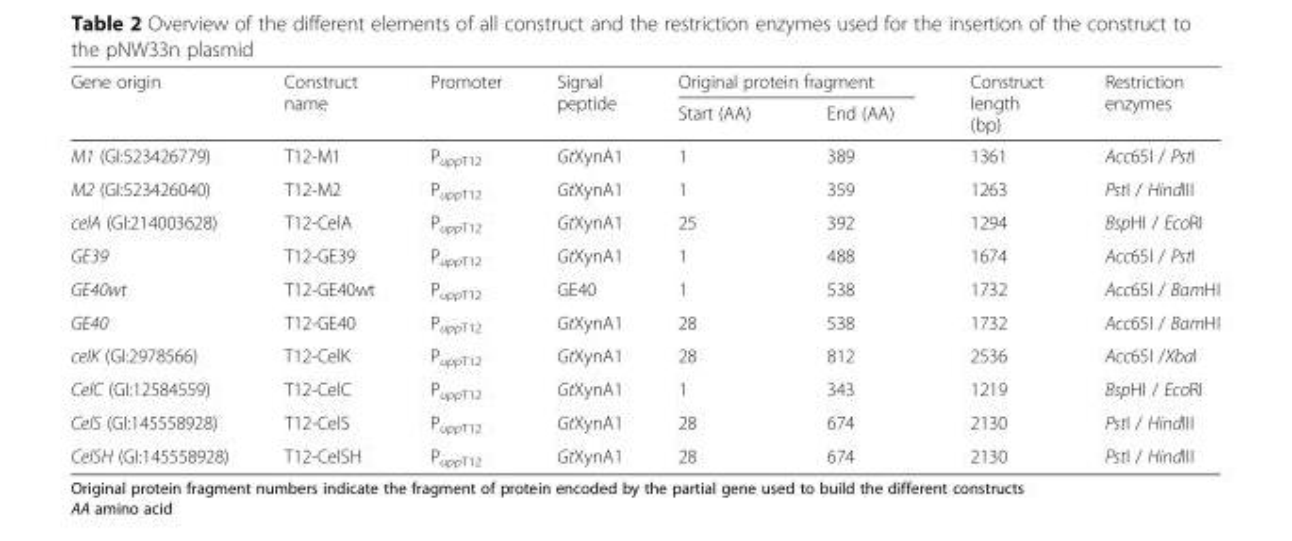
<table><thead><tr><td rowspan="2">Gene origin</td><td rowspan="2">Construct name</td><td rowspan="2">Promoter</td><td rowspan="2">Signal peptide</td><td colspan="2">Original protein fragment</td><td rowspan="2">Construct length (bp)</td><td rowspan="2">Restriction enzymes</td></tr><tr><td>Start (AA)</td><td>End (AA)</td></tr></thead><tbody><tr><td>M1 (GI:523426779)</td><td>T12-M1</td><td>P<sub>uppT12</sub></td><td>GtXynA1</td><td>1</td><td>389</td><td>1361</td><td>Acc65I / PstI</td></tr><tr><td>M2 (GI:523426040)</td><td>T12-M2</td><td>P<sub>uppT12</sub></td><td>GtXynA1</td><td>1</td><td>359</td><td>1263</td><td>PstI / HindIII</td></tr><tr><td>celA (GI:214003628)</td><td>T12-CelA</td><td>P<sub>uppT12</sub></td><td>GtXynA1</td><td>25</td><td>392</td><td>1294</td><td>BspHI / EcoRI</td></tr><tr><td>GE39</td><td>T12-GE39</td><td>P<sub>uppT12</sub></td><td>GtXynA1</td><td>1</td><td>488</td><td>1674</td><td>Acc65I / PstI</td></tr><tr><td>GE40wt</td><td>T12-GE40wt</td><td>P<sub>uppT12</sub></td><td>GE40</td><td>1</td><td>538</td><td>1732</td><td>Acc65I / BamHI</td></tr><tr><td>GE40</td><td>T12-GE40</td><td>P<sub>uppT12</sub></td><td>GtXynA1</td><td>28</td><td>538</td><td>1732</td><td>Acc65I / BamHI</td></tr><tr><td>celK (GI:2978566)</td><td>T12-CelK</td><td>P<sub>uppT12</sub></td><td>GtXynA1</td><td>28</td><td>812</td><td>2536</td><td>Acc65I /XbaI</td></tr><tr><td>CelC (GI:12584559)</td><td>T12-CelC</td><td>P<sub>uppT12</sub></td><td>GtXynA1</td><td>1</td><td>343</td><td>1219</td><td>BspHI / EcoRI</td></tr><tr><td>CelS (GI:145558928)</td><td>T12-CelS</td><td>P<sub>uppT12</sub></td><td>GtXynA1</td><td>28</td><td>674</td><td>2130</td><td>PstI / HindIII</td></tr><tr><td>CelSH (GI:145558928)</td><td>T12-CelSH</td><td>P<sub>uppT12</sub></td><td>GtXynA1</td><td>28</td><td>674</td><td>2130</td><td>PstI / HindIII</td></tr></tbody></table>